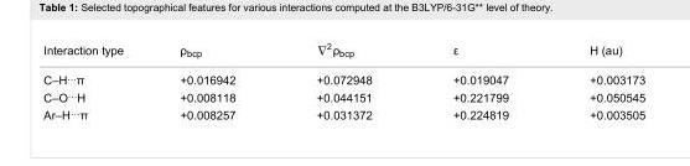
<table><tbody><tr><td>Interaction type</td><td>ρ<sub>bcp</sub></td><td>ρ<sub>bcp</sub></td><td>ε</td><td>H (au)</td></tr><tr><td>C–H<sup>…</sup>π</td><td>+0.016942</td><td>+0.072948</td><td>+0.019047</td><td>+0.003173</td></tr><tr><td>C–O<sup>…</sup>H</td><td>+0.008118</td><td>+0.044151</td><td>+0.221799</td><td>+0.050545</td></tr><tr><td>Ar–H<sup>…</sup>π</td><td>+0.008257</td><td>+0.031372</td><td>+0.224819</td><td>+0.003505</td></tr></tbody></table>